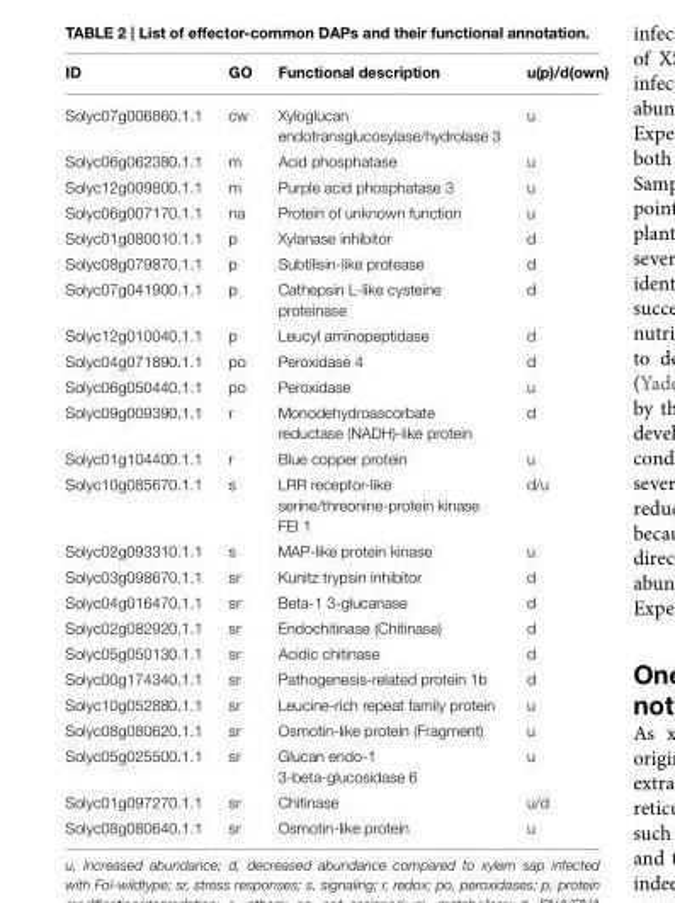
<table><thead><tr><td>ID</td><td>GO</td><td>Functional description</td><td>u(p)/d(own)</td></tr></thead><tbody><tr><td>Solyc07g006860.1.1</td><td>cw</td><td>Xyloglucan endotransglucosylase/hydrolase 3</td><td>u</td></tr><tr><td>Solyc06g062380.1.1</td><td>m</td><td>Acid phosphatase</td><td>u</td></tr><tr><td>Solyc12g009800.1.1</td><td>m</td><td>Purple acid phosphatase 3</td><td>u</td></tr><tr><td>Solyc06g007170.1.1</td><td>na</td><td>Protein of unknown function</td><td>u</td></tr><tr><td>Solyc01g080010.1.1</td><td>p</td><td>Xylanase inhibitor</td><td>d</td></tr><tr><td>Solyc08g079870.1.1</td><td>p</td><td>Subtilisin-like protease</td><td>d</td></tr><tr><td>Solyc07g041900.1.1</td><td>p</td><td>Cathepsin L-like cysteine proteinase</td><td>d</td></tr><tr><td>Solyc12g010040.1.1</td><td>p</td><td>Leucyl aminopeptidase</td><td>d</td></tr><tr><td>Solyc04g071890.1.1</td><td>po</td><td>Peroxidase 4</td><td>d</td></tr><tr><td>Solyc06g050440.1.1</td><td>po</td><td>Peroxidase</td><td>u</td></tr><tr><td>Solyc09g009390.1.1</td><td>r</td><td>Monodehydroascorbate reductase (NADH)-like protein</td><td>d</td></tr><tr><td>Solyc01g104400.1.1</td><td>r</td><td>Blue copper protein</td><td>u</td></tr><tr><td>Solyc10g085670.1.1</td><td>s</td><td>LRR receptor-like serine/threonine-protein kinase FEI 1</td><td>d/u</td></tr><tr><td>Solyc02g093310.1.1</td><td>s</td><td>MAP-like protein kinase</td><td>u</td></tr><tr><td>Solyc03g098670.1.1</td><td>sr</td><td>Kunitz trypsin inhibitor</td><td>d</td></tr><tr><td>Solyc04g016470.1.1</td><td>sr</td><td>Beta-1 3-glucanase</td><td>d</td></tr><tr><td>Solyc02g082920.1.1</td><td>sr</td><td>Endochitinase (Chitinase)</td><td>d</td></tr><tr><td>Solyc05g050130.1.1</td><td>sr</td><td>Acidic chitinase</td><td>d</td></tr><tr><td>Solyc00g174340.1.1</td><td>sr</td><td>Pathogenesis-related protein 1b</td><td>d</td></tr><tr><td>Solyc10g052880.1.1</td><td>sr</td><td>Leucine-rich repeat family protein</td><td>u</td></tr><tr><td>Solyc08g080620.1.1</td><td>sr</td><td>Osmotin-like protein (Fragment)</td><td>u</td></tr><tr><td>Solyc05g025500.1.1</td><td>sr</td><td>Glucan endo-1 3-beta-glucosidase 6</td><td>u</td></tr><tr><td>Solyc01g097270.1.1</td><td>sr</td><td>Chitinase</td><td>u/d</td></tr><tr><td>Solyc08g080640.1.1</td><td>sr</td><td>Osmotin-like protein</td><td>u</td></tr></tbody></table>